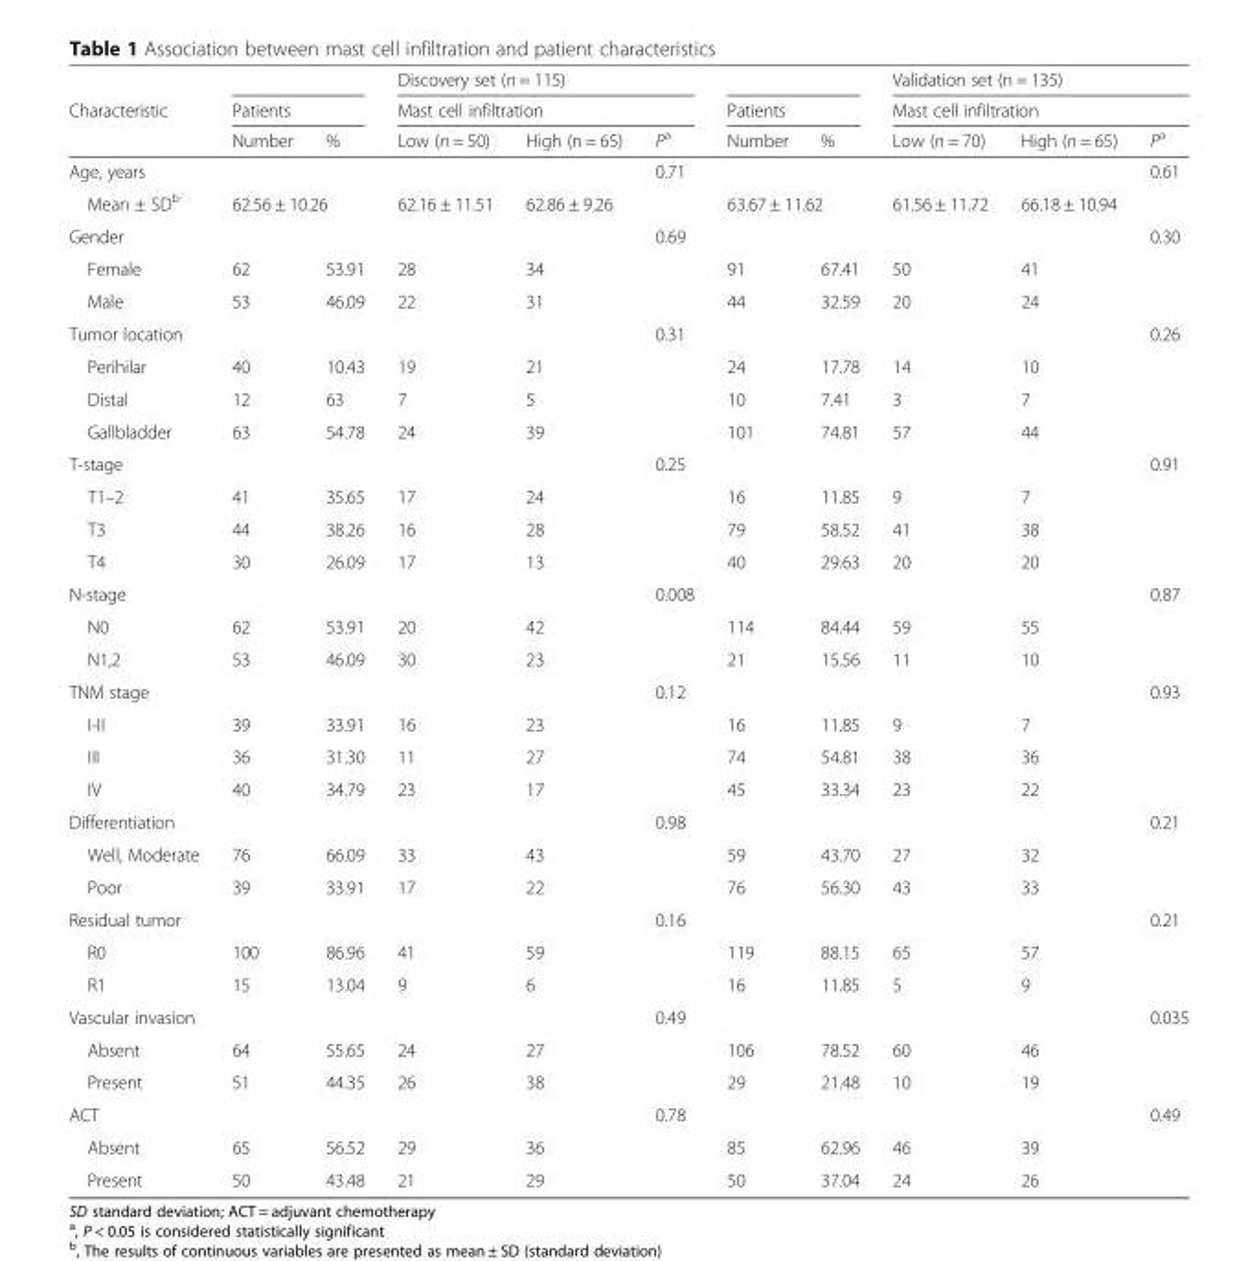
<table><thead><tr><td rowspan="3">Characteristic</td><td></td><td></td><td rowspan="2" colspan="3">Discovery set (n = 115) Mast cell infiltration</td><td></td><td></td><td rowspan="2" colspan="3">Validation set (n = 135) Mast cell infiltration</td></tr><tr><td colspan="2">Patients</td><td colspan="2">Patients</td></tr><tr><td>Number</td><td>%</td><td>Low (n = 50)</td><td>High (n = 65)</td><td>P<sup>a</sup></td><td>Number</td><td>%</td><td>Low (n = 70)</td><td>High (n = 65)</td><td>P<sup>a</sup></td></tr></thead><tbody><tr><td>Age, years</td><td colspan="2"></td><td></td><td></td><td>0.71</td><td colspan="2"></td><td></td><td></td><td rowspan="2">0.61</td></tr><tr><td>Mean ± SD<sup>b</sup></td><td colspan="2">62.56 ± 10.26</td><td>62.16 ± 11.51</td><td>62.86 ± 9.26</td><td></td><td colspan="2">63.67 ± 11.62</td><td>61.56 ± 11.72</td><td>66.18 ± 10.94</td></tr><tr><td>Gender</td><td></td><td></td><td></td><td></td><td>0.69</td><td></td><td></td><td></td><td></td><td rowspan="3">0.30</td></tr><tr><td>Female</td><td>62</td><td>53.91</td><td>28</td><td>34</td><td></td><td>91</td><td>67.41</td><td>50</td><td>41</td></tr><tr><td>Male</td><td>53</td><td>46.09</td><td>22</td><td>31</td><td></td><td>44</td><td>32.59</td><td>20</td><td>24</td></tr><tr><td>Tumor location</td><td></td><td></td><td></td><td></td><td>0.31</td><td></td><td></td><td></td><td></td><td rowspan="4">0.26</td></tr><tr><td>Perihilar</td><td>40</td><td>10.43</td><td>19</td><td>21</td><td></td><td>24</td><td>17.78</td><td>14</td><td>10</td></tr><tr><td>Distal</td><td>12</td><td>63</td><td>7</td><td>5</td><td></td><td>10</td><td>7.41</td><td>3</td><td>7</td></tr><tr><td>Gallbladder</td><td>63</td><td>54.78</td><td>24</td><td>39</td><td></td><td>101</td><td>74.81</td><td>57</td><td>44</td></tr><tr><td>T-stage</td><td></td><td></td><td></td><td></td><td>0.25</td><td></td><td></td><td></td><td></td><td rowspan="4">0.91</td></tr><tr><td>T1–2</td><td>41</td><td>35.65</td><td>17</td><td>24</td><td></td><td>16</td><td>11.85</td><td>9</td><td>7</td></tr><tr><td>T3</td><td>44</td><td>38.26</td><td>16</td><td>28</td><td></td><td>79</td><td>58.52</td><td>41</td><td>38</td></tr><tr><td>T4</td><td>30</td><td>26.09</td><td>17</td><td>13</td><td></td><td>40</td><td>29.63</td><td>20</td><td>20</td></tr><tr><td>N-stage</td><td></td><td></td><td></td><td></td><td>0.008</td><td></td><td></td><td></td><td></td><td rowspan="3">0.87</td></tr><tr><td>N0</td><td>62</td><td>53.91</td><td>20</td><td>42</td><td></td><td>114</td><td>84.44</td><td>59</td><td>55</td></tr><tr><td>N1,2</td><td>53</td><td>46.09</td><td>30</td><td>23</td><td></td><td>21</td><td>15.56</td><td>11</td><td>10</td></tr><tr><td>TNM stage</td><td></td><td></td><td></td><td></td><td>0.12</td><td></td><td></td><td></td><td></td><td rowspan="4">0.93</td></tr><tr><td>I-II</td><td>39</td><td>33.91</td><td>16</td><td>23</td><td></td><td>16</td><td>11.85</td><td>9</td><td>7</td></tr><tr><td>III</td><td>36</td><td>31.30</td><td>11</td><td>27</td><td></td><td>74</td><td>54.81</td><td>38</td><td>36</td></tr><tr><td>IV</td><td>40</td><td>34.79</td><td>23</td><td>17</td><td></td><td>45</td><td>33.34</td><td>23</td><td>22</td></tr><tr><td>Differentiation</td><td></td><td></td><td></td><td></td><td>0.98</td><td></td><td></td><td></td><td></td><td rowspan="3">0.21</td></tr><tr><td>Well, Moderate</td><td>76</td><td>66.09</td><td>33</td><td>43</td><td></td><td>59</td><td>43.70</td><td>27</td><td>32</td></tr><tr><td>Poor</td><td>39</td><td>33.91</td><td>17</td><td>22</td><td></td><td>76</td><td>56.30</td><td>43</td><td>33</td></tr><tr><td>Residual tumor</td><td></td><td></td><td></td><td></td><td>0.16</td><td></td><td></td><td></td><td></td><td rowspan="3">0.21</td></tr><tr><td>R0</td><td>100</td><td>86.96</td><td>41</td><td>59</td><td></td><td>119</td><td>88.15</td><td>65</td><td>57</td></tr><tr><td>R1</td><td>15</td><td>13.04</td><td>9</td><td>6</td><td></td><td>16</td><td>11.85</td><td>5</td><td>9</td></tr><tr><td>Vascular invasion</td><td></td><td></td><td></td><td></td><td>0.49</td><td></td><td></td><td></td><td></td><td rowspan="3">0.035</td></tr><tr><td>Absent</td><td>64</td><td>55.65</td><td>24</td><td>27</td><td></td><td>106</td><td>78.52</td><td>60</td><td>46</td></tr><tr><td>Present</td><td>51</td><td>44.35</td><td>26</td><td>38</td><td></td><td>29</td><td>21.48</td><td>10</td><td>19</td></tr><tr><td>ACT</td><td></td><td></td><td></td><td></td><td>0.78</td><td></td><td></td><td></td><td></td><td rowspan="3">0.49</td></tr><tr><td>Absent</td><td>65</td><td>56.52</td><td>29</td><td>36</td><td></td><td>85</td><td>62.96</td><td>46</td><td>39</td></tr><tr><td>Present</td><td>50</td><td>43.48</td><td>21</td><td>29</td><td></td><td>50</td><td>37.04</td><td>24</td><td>26</td></tr></tbody></table>